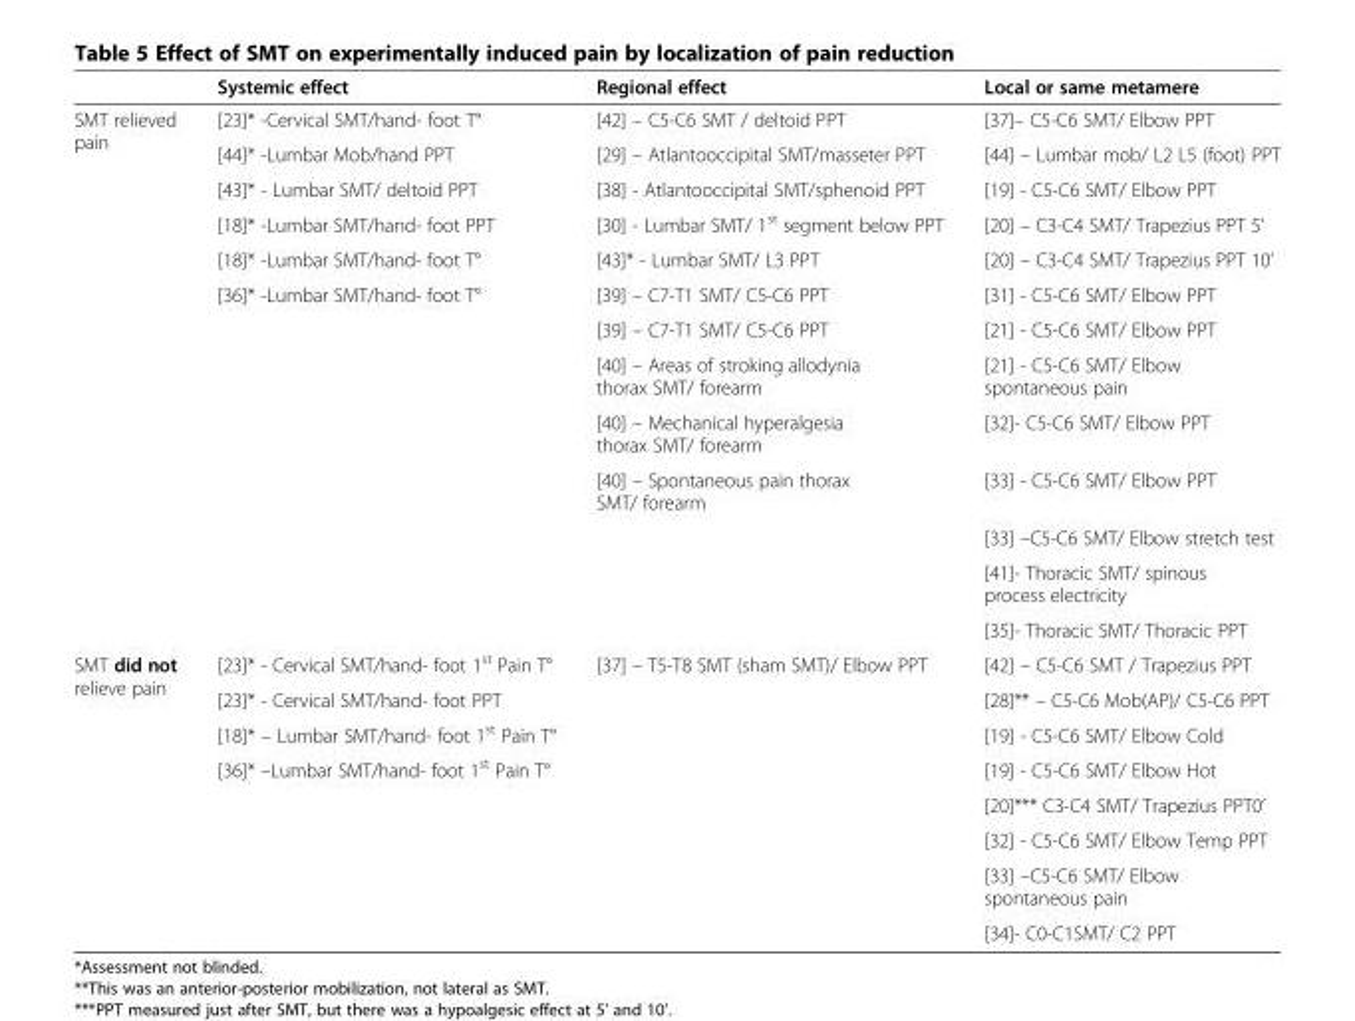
<table><thead><tr><td></td><td>Systemic effect</td><td>Regional effect</td><td>Local or same metamere</td></tr></thead><tbody><tr><td rowspan="13">SMT relieved pain</td><td>[23]* -Cervical SMT/hand- foot T°</td><td>[42] – C5-C6 SMT / deltoid PPT</td><td>[37]– C5-C6 SMT/ Elbow PPT</td></tr><tr><td>[44]* -Lumbar Mob/hand PPT</td><td>[29] – Atlantooccipital SMT/masseter PPT</td><td>[44] – Lumbar mob/ L2 L5 (foot) PPT</td></tr><tr><td>[43]* - Lumbar SMT/ deltoid PPT</td><td>[38] - Atlantooccipital SMT/sphenoid PPT</td><td>[19] - C5-C6 SMT/ Elbow PPT</td></tr><tr><td>[18]* -Lumbar SMT/hand- foot PPT</td><td>[30] - Lumbar SMT/ 1<sup>st</sup> segment below PPT</td><td>[20] – C3-C4 SMT/ Trapezius PPT 5’</td></tr><tr><td>[18]* -Lumbar SMT/hand- foot T°</td><td>[43]* - Lumbar SMT/ L3 PPT</td><td>[20] – C3-C4 SMT/ Trapezius PPT 10’</td></tr><tr><td>[36]* -Lumbar SMT/hand- foot T°</td><td>[39] – C7-T1 SMT/ C5-C6 PPT</td><td>[31] - C5-C6 SMT/ Elbow PPT</td></tr><tr><td></td><td>[39] – C7-T1 SMT/ C5-C6 PPT</td><td>[21] - C5-C6 SMT/ Elbow PPT</td></tr><tr><td></td><td>[40] – Areas of stroking allodynia thorax SMT/ forearm</td><td>[21] - C5-C6 SMT/ Elbow spontaneous pain</td></tr><tr><td></td><td>[40] – Mechanical hyperalgesia thorax SMT/ forearm</td><td>[32]- C5-C6 SMT/ Elbow PPT</td></tr><tr><td></td><td>[40] – Spontaneous pain thorax SMT/ forearm</td><td>[33] - C5-C6 SMT/ Elbow PPT</td></tr><tr><td></td><td></td><td>[33] –C5-C6 SMT/ Elbow stretch test</td></tr><tr><td></td><td></td><td>[41]- Thoracic SMT/ spinous process electricity</td></tr><tr><td></td><td></td><td>[35]- Thoracic SMT/ Thoracic PPT</td></tr><tr><td rowspan="8">SMT did not relieve pain</td><td>[23]* - Cervical SMT/hand- foot 1<sup>st</sup> Pain T°</td><td>[37] – T5-T8 SMT (sham SMT)/ Elbow PPT</td><td>[42] – C5-C6 SMT / Trapezius PPT</td></tr><tr><td>[23]* - Cervical SMT/hand- foot PPT</td><td></td><td>[28]** – C5-C6 Mob(AP)/ C5-C6 PPT</td></tr><tr><td>[18]* – Lumbar SMT/hand- foot 1<sup>st</sup> Pain T°</td><td></td><td>[19] - C5-C6 SMT/ Elbow Cold</td></tr><tr><td>[36]* –Lumbar SMT/hand- foot 1<sup>st</sup> Pain T°</td><td></td><td>[19] - C5-C6 SMT/ Elbow Hot</td></tr><tr><td></td><td></td><td>[20]*** C3-C4 SMT/ Trapezius PPT0’</td></tr><tr><td></td><td></td><td>[32] - C5-C6 SMT/ Elbow Temp PPT</td></tr><tr><td></td><td></td><td>[33] –C5-C6 SMT/ Elbow spontaneous pain</td></tr><tr><td></td><td></td><td>[34]- C0-C1SMT/ C2 PPT</td></tr></tbody></table>